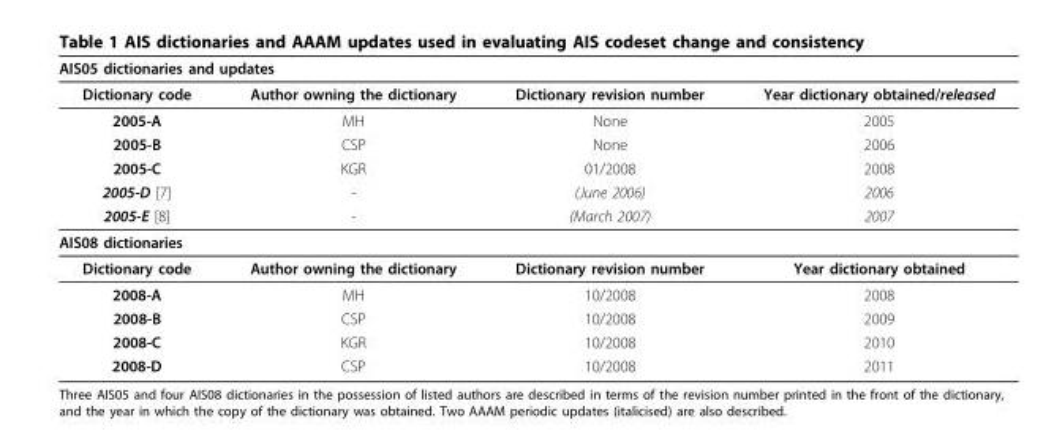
<table><thead><tr><td colspan="4">AIS05 dictionaries and updates</td></tr><tr><td>Dictionary code</td><td>Author owning the dictionary</td><td>Dictionary revision number</td><td>Year dictionary obtained/released</td></tr></thead><tbody><tr><td>2005-A</td><td>MH</td><td>None</td><td>2005</td></tr><tr><td>2005-B</td><td>CSP</td><td>None</td><td>2006</td></tr><tr><td>2005-C</td><td>KGR</td><td>01/2008</td><td>2008</td></tr><tr><td>2005-D [7]</td><td>-</td><td>(June 2006)</td><td>2006</td></tr><tr><td>2005-E [8]</td><td>-</td><td>(March 2007)</td><td>2007</td></tr><tr><td colspan="4">AIS08 dictionaries</td></tr><tr><td>Dictionary code</td><td>Author owning the dictionary</td><td>Dictionary revision number</td><td>Year dictionary obtained</td></tr><tr><td>2008-A</td><td>MH</td><td>10/2008</td><td>2008</td></tr><tr><td>2008-B</td><td>CSP</td><td>10/2008</td><td>2009</td></tr><tr><td>2008-C</td><td>KGR</td><td>10/2008</td><td>2010</td></tr><tr><td>2008-D</td><td>CSP</td><td>10/2008</td><td>2011</td></tr></tbody></table>